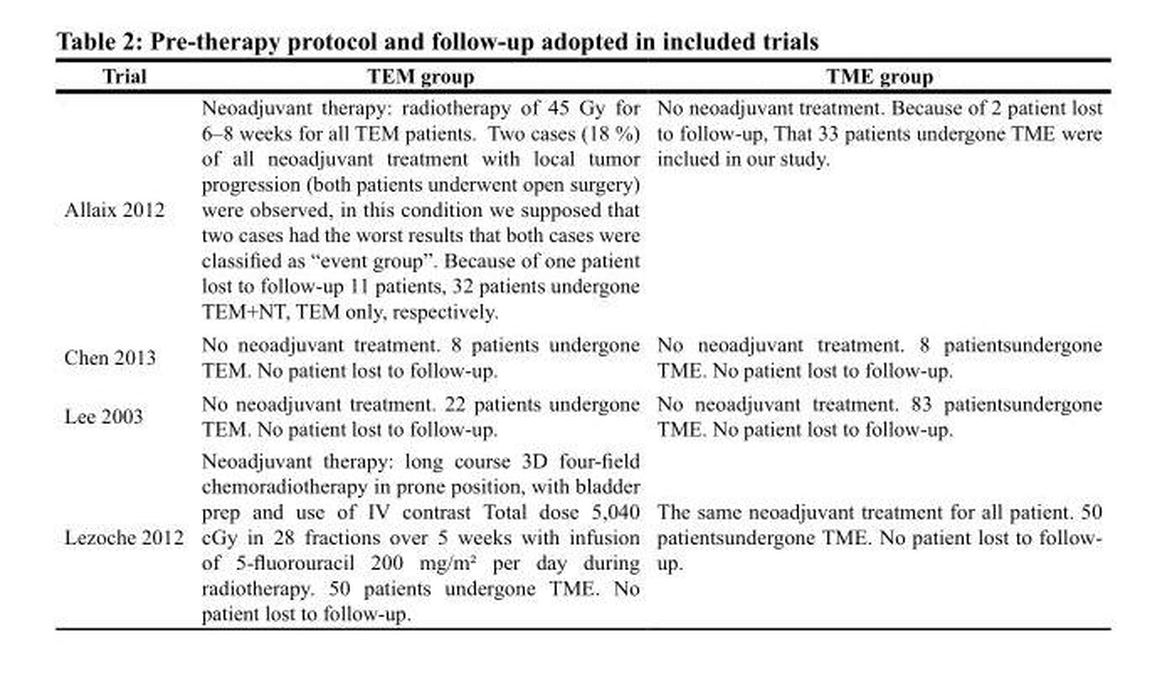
<table><thead><tr><td>Trial</td><td>TEM group</td><td>TME group</td></tr></thead><tbody><tr><td>Allaix 2012</td><td>Neoadjuvant therapy: radiotherapy of 45 Gy for 6–8 weeks for all TEM patients. Two cases (18 %) of all neoadjuvant treatment with local tumor progression (both patients underwent open surgery) were observed, in this condition we supposed that two cases had the worst results that both cases were classified as “event group”. Because of one patient lost to follow-up 11 patients, 32 patients undergone TEM+NT, TEM only, respectively.</td><td>No neoadjuvant treatment. Because of 2 patient lost to follow-up, That 33 patients undergone TME were inclued in our study.</td></tr><tr><td>Chen 2013</td><td>No neoadjuvant treatment. 8 patients undergone TEM. No patient lost to follow-up.</td><td>No neoadjuvant treatment. 8 patientsundergone TME. No patient lost to follow-up.</td></tr><tr><td>Lee 2003</td><td>No neoadjuvant treatment. 22 patients undergone TEM. No patient lost to follow-up.</td><td>No neoadjuvant treatment. 83 patientsundergone TME. No patient lost to follow-up.</td></tr><tr><td>Lezoche 2012</td><td>Neoadjuvant therapy: long course 3D four-field chemoradiotherapy in prone position, with bladder prep and use of IV contrast Total dose 5,040 cGy in 28 fractions over 5 weeks with infusion of 5-fluorouracil 200 mg/m² per day during radiotherapy. 50 patients undergone TME. No patient lost to follow-up.</td><td>The same neoadjuvant treatment for all patient. 50 patientsundergone TME. No patient lost to follow- up.</td></tr></tbody></table>